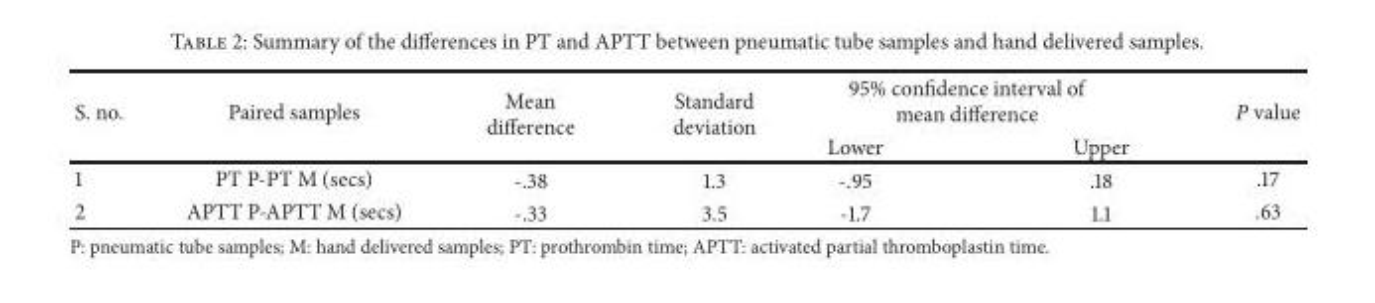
<table><thead><tr><td rowspan="2">S. no.</td><td rowspan="2">Paired samples</td><td rowspan="2">Mean difference</td><td rowspan="2">Standard deviation</td><td colspan="2">95% confidence interval of mean difference</td><td rowspan="2">P value</td></tr><tr><td>Lower</td><td>Upper</td></tr></thead><tbody><tr><td>1</td><td>PT P-PT M (secs)</td><td>-.38</td><td>1.3</td><td>-.95</td><td>.18</td><td>.17</td></tr><tr><td>2</td><td>APTT P-APTT M (secs)</td><td>-.33</td><td>3.5</td><td>-1.7</td><td>1.1</td><td>.63</td></tr></tbody></table>